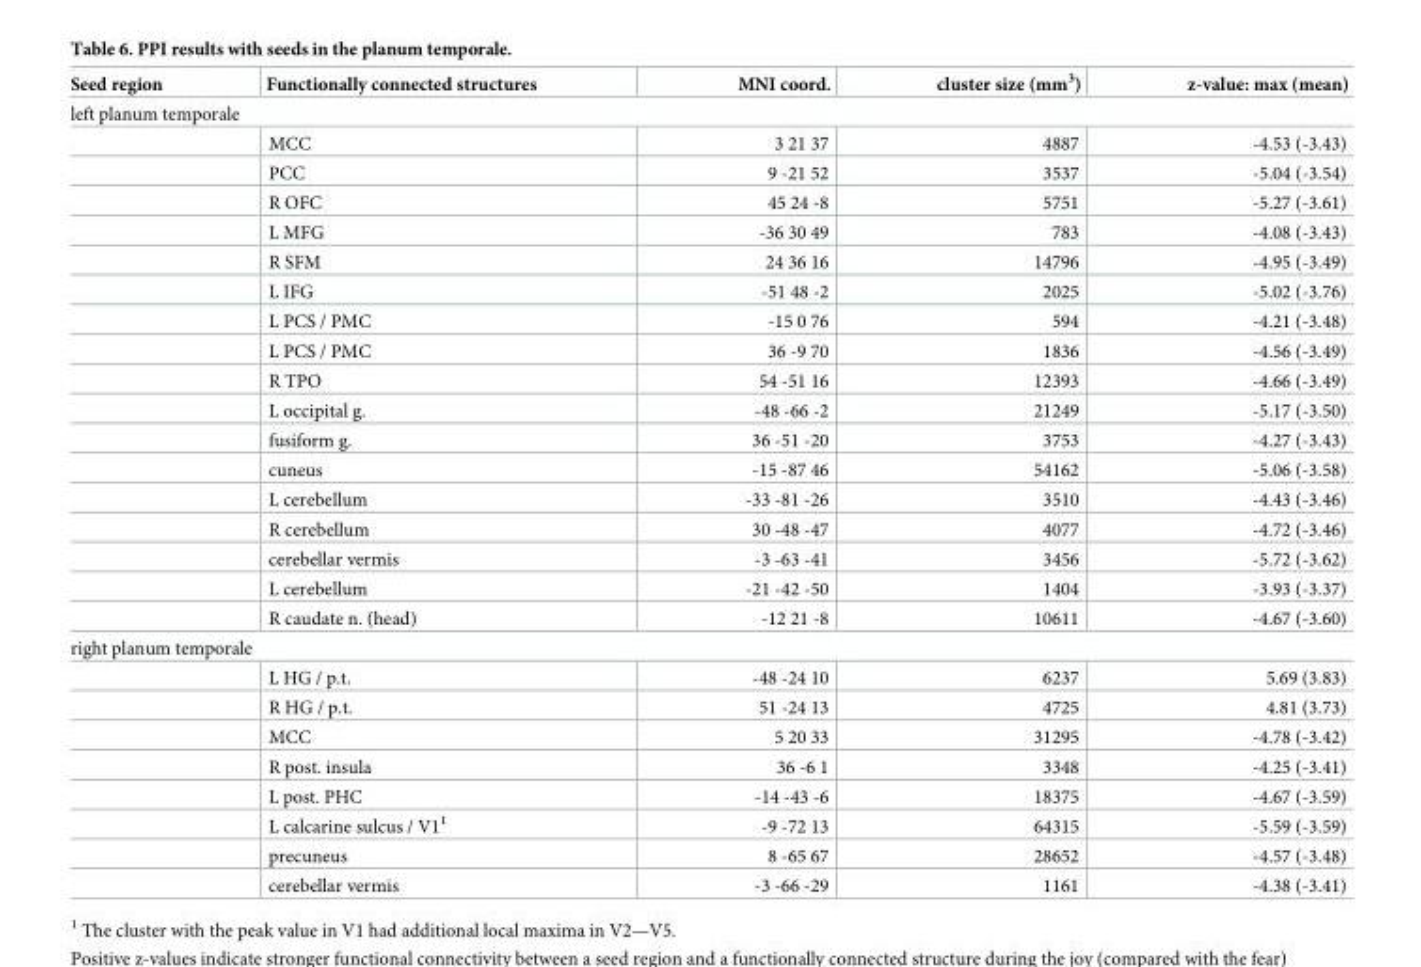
<table><thead><tr><td>Seed region</td><td>Functionally connected structures</td><td>MNI coord.</td><td>cluster size (mm<sup>3</sup>)</td><td>z-value: max (mean)</td></tr></thead><tbody><tr><td colspan="5">left planum temporale</td></tr><tr><td></td><td>MCC</td><td>3 21 37</td><td>4887</td><td>-4.53 (-3.43)</td></tr><tr><td></td><td>PCC</td><td>9 -21 52</td><td>3537</td><td>-5.04 (-3.54)</td></tr><tr><td></td><td>R OFC</td><td>45 24 -8</td><td>5751</td><td>-5.27 (-3.61)</td></tr><tr><td></td><td>L MFG</td><td>-36 30 49</td><td>783</td><td>-4.08 (-3.43)</td></tr><tr><td></td><td>R SFM</td><td>24 36 16</td><td>14796</td><td>-4.95 (-3.49)</td></tr><tr><td></td><td>L IFG</td><td>-51 48 -2</td><td>2025</td><td>-5.02 (-3.76)</td></tr><tr><td></td><td>L PCS / PMC</td><td>-15 0 76</td><td>594</td><td>-4.21 (-3.48)</td></tr><tr><td></td><td>L PCS / PMC</td><td>36 -9 70</td><td>1836</td><td>-4.56 (-3.49)</td></tr><tr><td></td><td>R TPO</td><td>54 -51 16</td><td>12393</td><td>-4.66 (-3.49)</td></tr><tr><td></td><td>L occipital g.</td><td>-48 -66 -2</td><td>21249</td><td>-5.17 (-3.50)</td></tr><tr><td></td><td>fusiform g.</td><td>36 -51 -20</td><td>3753</td><td>-4.27 (-3.43)</td></tr><tr><td></td><td>cuneus</td><td>-15 -87 46</td><td>54162</td><td>-5.06 (-3.58)</td></tr><tr><td></td><td>L cerebellum</td><td>-33 -81 -26</td><td>3510</td><td>-4.43 (-3.46)</td></tr><tr><td></td><td>R cerebellum</td><td>30 -48 -47</td><td>4077</td><td>-4.72 (-3.46)</td></tr><tr><td></td><td>cerebellar vermis</td><td>-3 -63 -41</td><td>3456</td><td>-5.72 (-3.62)</td></tr><tr><td></td><td>L cerebellum</td><td>-21 -42 -50</td><td>1404</td><td>-3.93 (-3.37)</td></tr><tr><td></td><td>R caudate n. (head)</td><td>-12 21 -8</td><td>10611</td><td>-4.67 (-3.60)</td></tr><tr><td colspan="5">right planum temporale</td></tr><tr><td></td><td>L HG / p.t.</td><td>-48 -24 10</td><td>6237</td><td>5.69 (3.83)</td></tr><tr><td></td><td>R HG / p.t.</td><td>51 -24 13</td><td>4725</td><td>4.81 (3.73)</td></tr><tr><td></td><td>MCC</td><td>5 20 33</td><td>31295</td><td>-4.78 (-3.42)</td></tr><tr><td></td><td>R post. insula</td><td>36 -6 1</td><td>3348</td><td>-4.25 (-3.41)</td></tr><tr><td></td><td>L post. PHC</td><td>-14 -43 -6</td><td>18375</td><td>-4.67 (-3.59)</td></tr><tr><td></td><td>L calcarine sulcus / V1<sup>1</sup></td><td>-9 -72 13</td><td>64315</td><td>-5.59 (-3.59)</td></tr><tr><td></td><td>precuneus</td><td>8 -65 67</td><td>28652</td><td>-4.57 (-3.48)</td></tr><tr><td></td><td>cerebellar vermis</td><td>-3 -66 -29</td><td>1161</td><td>-4.38 (-3.41)</td></tr></tbody></table>